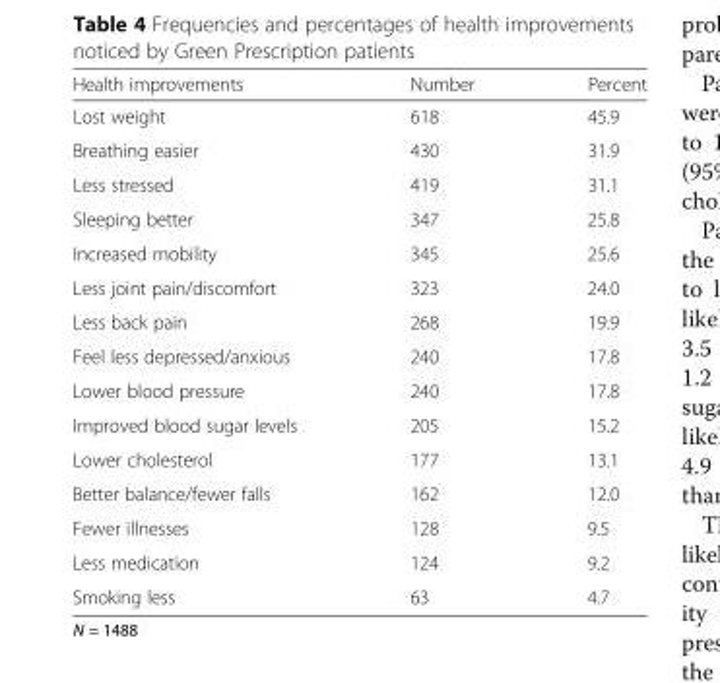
<table><thead><tr><td>Health improvements</td><td>Number</td><td>Percent</td></tr></thead><tbody><tr><td>Lost weight</td><td>618</td><td>45.9</td></tr><tr><td>Breathing easier</td><td>430</td><td>31.9</td></tr><tr><td>Less stressed</td><td>419</td><td>31.1</td></tr><tr><td>Sleeping better</td><td>347</td><td>25.8</td></tr><tr><td>Increased mobility</td><td>345</td><td>25.6</td></tr><tr><td>Less joint pain/discomfort</td><td>323</td><td>24.0</td></tr><tr><td>Less back pain</td><td>268</td><td>19.9</td></tr><tr><td>Feel less depressed/anxious</td><td>240</td><td>17.8</td></tr><tr><td>Lower blood pressure</td><td>240</td><td>17.8</td></tr><tr><td>Improved blood sugar levels</td><td>205</td><td>15.2</td></tr><tr><td>Lower cholesterol</td><td>177</td><td>13.1</td></tr><tr><td>Better balance/fewer falls</td><td>162</td><td>12.0</td></tr><tr><td>Fewer illnesses</td><td>128</td><td>9.5</td></tr><tr><td>Less medication</td><td>124</td><td>9.2</td></tr><tr><td>Smoking less</td><td>63</td><td>4.7</td></tr></tbody></table>